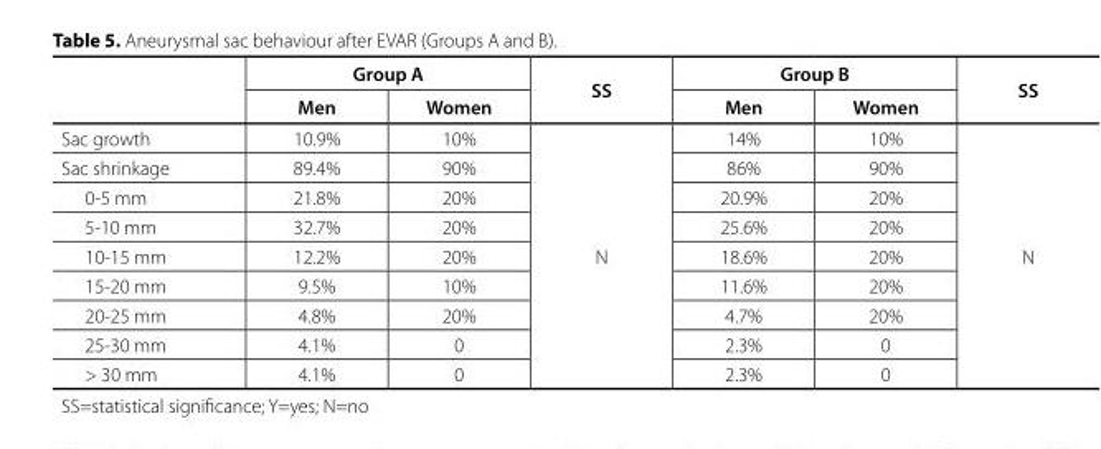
<table><thead><tr><td rowspan="2"></td><td colspan="2">Group A</td><td rowspan="2">SS</td><td colspan="2">Group B</td><td rowspan="2">SS</td></tr><tr><td>Men</td><td>Women</td><td>Men</td><td>Women</td></tr></thead><tbody><tr><td>Sac growth</td><td>10.9%</td><td>10%</td><td rowspan="9">N</td><td>14%</td><td>10%</td><td rowspan="9">N</td></tr><tr><td>Sac shrinkage</td><td>89.4%</td><td>90%</td><td>86%</td><td>90%</td></tr><tr><td>0-5 mm</td><td>21.8%</td><td>20%</td><td>20.9%</td><td>20%</td></tr><tr><td>5-10 mm</td><td>32.7%</td><td>20%</td><td>25.6%</td><td>20%</td></tr><tr><td>10-15 mm</td><td>12.2%</td><td>20%</td><td>18.6%</td><td>20%</td></tr><tr><td>15-20 mm</td><td>9.5%</td><td>10%</td><td>11.6%</td><td>20%</td></tr><tr><td>20-25 mm</td><td>4.8%</td><td>20%</td><td>4.7%</td><td>20%</td></tr><tr><td>25-30 mm</td><td>4.1%</td><td>0</td><td>2.3%</td><td>0</td></tr><tr><td>&gt; 30 mm</td><td>4.1%</td><td>0</td><td>2.3%</td><td>0</td></tr></tbody></table>